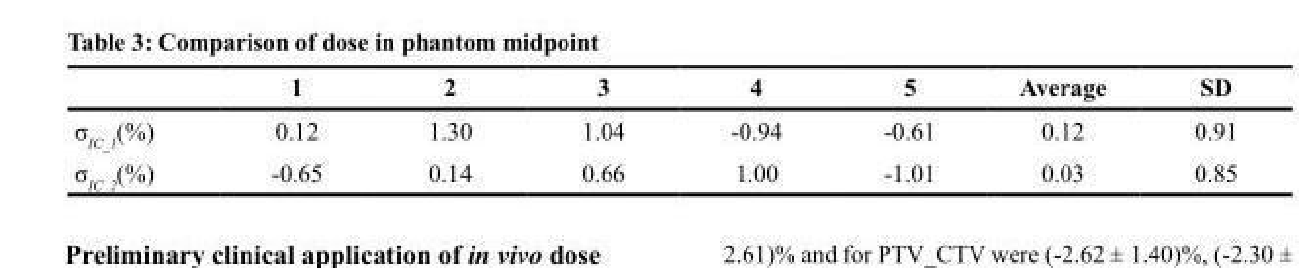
<table><thead><tr><td></td><td>1</td><td>2</td><td>3</td><td>4</td><td>5</td><td>Average</td><td>SD</td></tr></thead><tbody><tr><td>σ<sub>IC_1</sub>(%)</td><td>0.12</td><td>1.30</td><td>1.04</td><td>-0.94</td><td>-0.61</td><td>0.12</td><td>0.91</td></tr><tr><td>σ<sub>IC_2</sub>(%)</td><td>-0.65</td><td>0.14</td><td>0.66</td><td>1.00</td><td>-1.01</td><td>0.03</td><td>0.85</td></tr></tbody></table>